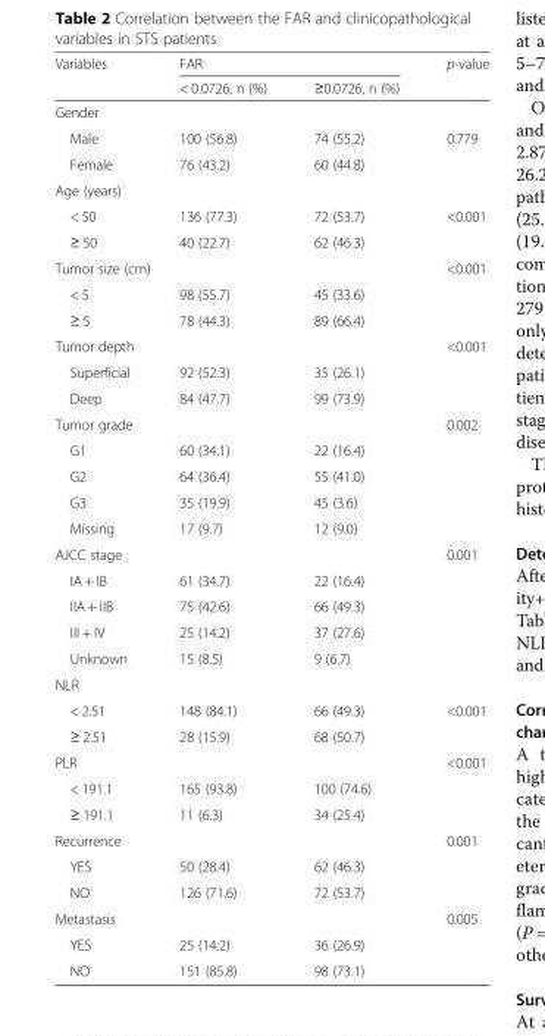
<table><thead><tr><td rowspan="2">Variables</td><td colspan="2">FAR</td><td rowspan="2">p-value</td></tr><tr><td>&lt; 0.0726, n (%)</td><td>≥0.0726, n (%)</td></tr></thead><tbody><tr><td colspan="4">Gender</td></tr><tr><td>Male</td><td>100 (56.8)</td><td>74 (55.2)</td><td rowspan="2">0.779</td></tr><tr><td>Female</td><td>76 (43.2)</td><td>60 (44.8)</td></tr><tr><td colspan="4">Age (years)</td></tr><tr><td>&lt; 50</td><td>136 (77.3)</td><td>72 (53.7)</td><td rowspan="2">&lt;0.001</td></tr><tr><td>≥ 50</td><td>40 (22.7)</td><td>62 (46.3)</td></tr><tr><td colspan="3">Tumor size (cm)</td><td rowspan="3">&lt;0.001</td></tr><tr><td>&lt; 5</td><td>98 (55.7)</td><td>45 (33.6)</td></tr><tr><td>≥ 5</td><td>78 (44.3)</td><td>89 (66.4)</td></tr><tr><td colspan="3">Tumor depth</td><td rowspan="3">&lt;0.001</td></tr><tr><td>Superficial</td><td>92 (52.3)</td><td>35 (26.1)</td></tr><tr><td>Deep</td><td>84 (47.7)</td><td>99 (73.9)</td></tr><tr><td colspan="3">Tumor grade</td><td rowspan="5">0.002</td></tr><tr><td>G1</td><td>60 (34.1)</td><td>22 (16.4)</td></tr><tr><td>G2</td><td>64 (36.4)</td><td>55 (41.0)</td></tr><tr><td>G3</td><td>35 (19.9)</td><td>45 (3.6)</td></tr><tr><td>Missing</td><td>17 (9.7)</td><td>12 (9.0)</td></tr><tr><td colspan="3">AJCC stage</td><td rowspan="5">0.001</td></tr><tr><td>IA + IB</td><td>61 (34.7)</td><td>22 (16.4)</td></tr><tr><td>IIA + IIB</td><td>75 (42.6)</td><td>66 (49.3)</td></tr><tr><td>III + IV</td><td>25 (14.2)</td><td>37 (27.6)</td></tr><tr><td>Unknown</td><td>15 (8.5)</td><td>9 (6.7)</td></tr><tr><td colspan="4">NLR</td></tr><tr><td>&lt; 2.51</td><td>148 (84.1)</td><td>66 (49.3)</td><td rowspan="2">&lt;0.001</td></tr><tr><td>≥ 2.51</td><td>28 (15.9)</td><td>68 (50.7)</td></tr><tr><td colspan="3">PLR</td><td rowspan="3">&lt;0.001</td></tr><tr><td>&lt; 191.1</td><td>165 (93.8)</td><td>100 (74.6)</td></tr><tr><td>≥ 191.1</td><td>11 (6.3)</td><td>34 (25.4)</td></tr><tr><td colspan="3">Recurrence</td><td rowspan="3">0.001</td></tr><tr><td>YES</td><td>50 (28.4)</td><td>62 (46.3)</td></tr><tr><td>NO</td><td>126 (71.6)</td><td>72 (53.7)</td></tr><tr><td colspan="3">Metastasis</td><td rowspan="3">0.005</td></tr><tr><td>YES</td><td>25 (14.2)</td><td>36 (26.9)</td></tr><tr><td>NO</td><td>151 (85.8)</td><td>98 (73.1)</td></tr></tbody></table>